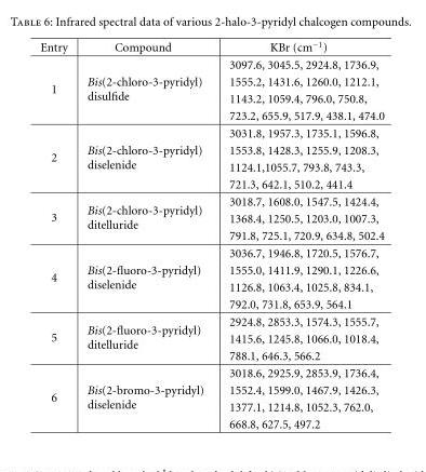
<table><tbody><tr><td>Entry</td><td>Compound</td><td>KBr (cm−1)</td></tr><tr><td rowspan="4">1</td><td rowspan="4">Bis(2-chloro-3-pyridyl) disulfide</td><td>3097.6, 3045.5, 2924.8, 1736.9,</td></tr><tr><td>1555.2, 1431.6, 1260.0, 1212.1,</td></tr><tr><td>1143.2, 1059.4, 796.0, 750.8,</td></tr><tr><td>723.2, 655.9, 517.9, 438.1, 474.0</td></tr><tr><td rowspan="4">2</td><td rowspan="4">Bis(2-chloro-3-pyridyl) diselenide</td><td>3031.8, 1957.3, 1735.1, 1596.8,</td></tr><tr><td>1553.8, 1428.3, 1255.9, 1208.3,</td></tr><tr><td>1124.1,1055.7, 793.8, 743.3,</td></tr><tr><td>721.3, 642.1, 510.2, 441.4</td></tr><tr><td rowspan="3">3</td><td rowspan="3">Bis(2-chloro-3-pyridyl) ditelluride</td><td>3018.7, 1608.0, 1547.5, 1424.4,</td></tr><tr><td>1368.4, 1250.5, 1203.0, 1007.3,</td></tr><tr><td>791.8, 725.1, 720.9, 634.8, 502.4</td></tr><tr><td rowspan="4">4</td><td rowspan="4">Bis(2-fluoro-3-pyridyl) diselenide</td><td>3036.7, 1946.8, 1720.5, 1576.7,</td></tr><tr><td>1555.0, 1411.9, 1290.1, 1226.6,</td></tr><tr><td>1126.8, 1063.4, 1025.8, 834.1,</td></tr><tr><td>792.0, 731.8, 653.9, 564.1</td></tr><tr><td rowspan="3">5</td><td rowspan="3">Bis(2-fluoro-3-pyridyl) ditelluride</td><td>2924.8, 2853.3, 1574.3, 1555.7,</td></tr><tr><td>1415.6, 1245.8, 1066.0, 1018.4,</td></tr><tr><td>788.1, 646.3, 566.2</td></tr><tr><td rowspan="4">6</td><td rowspan="4">Bis(2-bromo-3-pyridyl) diselenide</td><td>3018.6, 2925.9, 2853.9, 1736.4,</td></tr><tr><td>1552.4, 1599.0, 1467.9, 1426.3,</td></tr><tr><td>1377.1, 1214.8, 1052.3, 762.0,</td></tr><tr><td>668.8, 627.5, 497.2</td></tr></tbody></table>